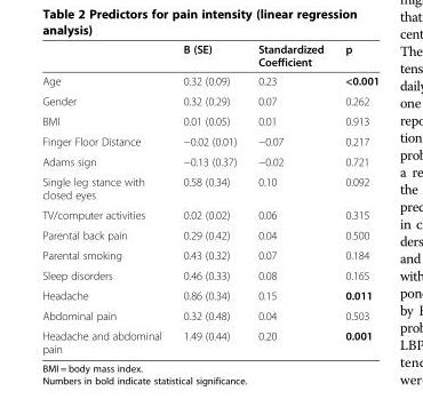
<table><thead><tr><td></td><td>B (SE)</td><td>Standardized Coefficient</td><td>p</td></tr></thead><tbody><tr><td>Age</td><td>0.32 (0.09)</td><td>0.23</td><td>&lt;0.001</td></tr><tr><td>Gender</td><td>0.32 (0.29)</td><td>0.07</td><td>0.262</td></tr><tr><td>BMI</td><td>0.01 (0.05)</td><td>0.01</td><td>0.913</td></tr><tr><td>Finger Floor Distance</td><td>−0.02 (0.01)</td><td>−0.07</td><td>0.217</td></tr><tr><td>Adams sign</td><td>−0.13 (0.37)</td><td>−0.02</td><td>0.721</td></tr><tr><td>Single leg stance with closed eyes</td><td>0.58 (0.34)</td><td>0.10</td><td>0.092</td></tr><tr><td>TV/computer activities</td><td>0.02 (0.02)</td><td>0.06</td><td>0.315</td></tr><tr><td>Parental back pain</td><td>0.29 (0.42)</td><td>0.04</td><td>0.500</td></tr><tr><td>Parental smoking</td><td>0.43 (0.32)</td><td>0.07</td><td>0.184</td></tr><tr><td>Sleep disorders</td><td>0.46 (0.33)</td><td>0.08</td><td>0.165</td></tr><tr><td>Headache</td><td>0.86 (0.34)</td><td>0.15</td><td>0.011</td></tr><tr><td>Abdominal pain</td><td>0.32 (0.48)</td><td>0.04</td><td>0.503</td></tr><tr><td>Headache and abdominal pain</td><td>1.49 (0.44)</td><td>0.20</td><td>0.001</td></tr></tbody></table>